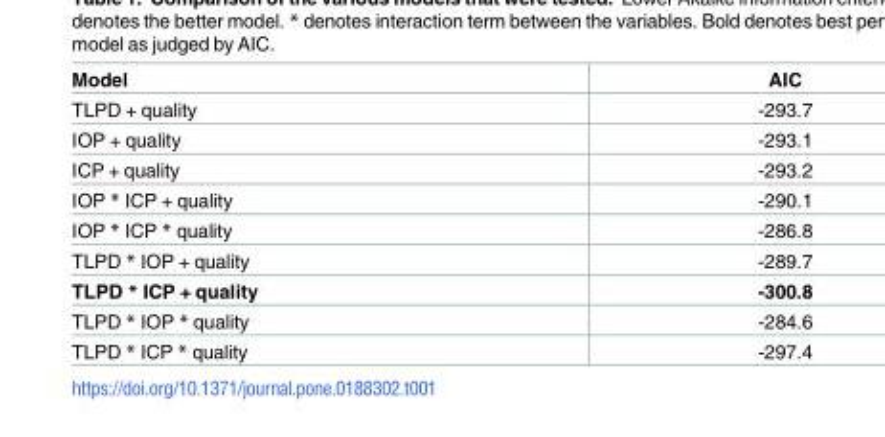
<table><thead><tr><td>Model</td><td>AIC</td></tr></thead><tbody><tr><td>TLPD + quality</td><td>-293.7</td></tr><tr><td>IOP + quality</td><td>-293.1</td></tr><tr><td>ICP + quality</td><td>-293.2</td></tr><tr><td>IOP * ICP + quality</td><td>-290.1</td></tr><tr><td>IOP * ICP * quality</td><td>-286.8</td></tr><tr><td>TLPD * IOP + quality</td><td>-289.7</td></tr><tr><td>TLPD * ICP + quality</td><td>-300.8</td></tr><tr><td>TLPD * IOP * quality</td><td>-284.6</td></tr><tr><td>TLPD * ICP * quality</td><td>-297.4</td></tr></tbody></table>